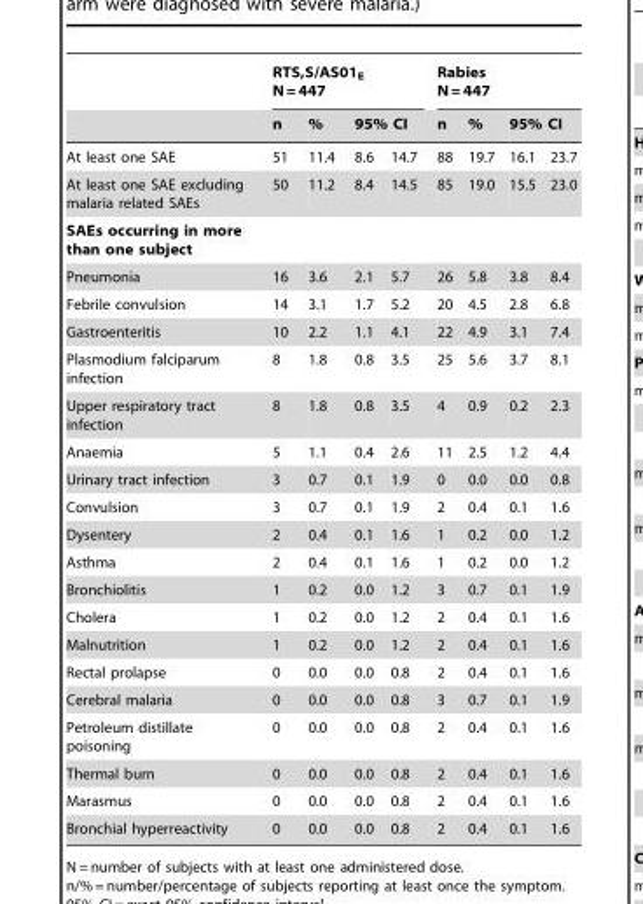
<table><thead><tr><td rowspan="3">At least one SAE</td><td colspan="4">RTS,S/AS01<sub>E</sub> N = 447</td><td colspan="4">Rabies N = 447</td></tr><tr><td rowspan="2">n 51</td><td rowspan="2">% 11.4</td><td colspan="2">95% CI</td><td rowspan="2">n 88</td><td rowspan="2">% 19.7</td><td colspan="2">95% CI</td></tr><tr><td>8.6</td><td>14.7</td><td>16.1</td><td>23.7</td></tr></thead><tbody><tr><td>At least one SAE excluding malaria related SAEs</td><td>50</td><td>11.2</td><td>8.4</td><td>14.5</td><td>85</td><td>19.0</td><td>15.5</td><td>23.0</td></tr><tr><td colspan="9">SAEs occurring in more than one subject</td></tr><tr><td>Pneumonia</td><td>16</td><td>3.6</td><td>2.1</td><td>5.7</td><td>26</td><td>5.8</td><td>3.8</td><td>8.4</td></tr><tr><td>Febrile convulsion</td><td>14</td><td>3.1</td><td>1.7</td><td>5.2</td><td>20</td><td>4.5</td><td>2.8</td><td>6.8</td></tr><tr><td>Gastroenteritis</td><td>10</td><td>2.2</td><td>1.1</td><td>4.1</td><td>22</td><td>4.9</td><td>3.1</td><td>7.4</td></tr><tr><td>Plasmodium falciparum infection</td><td>8</td><td>1.8</td><td>0.8</td><td>3.5</td><td>25</td><td>5.6</td><td>3.7</td><td>8.1</td></tr><tr><td>Upper respiratory tract infection</td><td>8</td><td>1.8</td><td>0.8</td><td>3.5</td><td>4</td><td>0.9</td><td>0.2</td><td>2.3</td></tr><tr><td>Anaemia</td><td>5</td><td>1.1</td><td>0.4</td><td>2.6</td><td>11</td><td>2.5</td><td>1.2</td><td>4.4</td></tr><tr><td>Urinary tract infection</td><td>3</td><td>0.7</td><td>0.1</td><td>1.9</td><td>0</td><td>0.0</td><td>0.0</td><td>0.8</td></tr><tr><td>Convulsion</td><td>3</td><td>0.7</td><td>0.1</td><td>1.9</td><td>2</td><td>0.4</td><td>0.1</td><td>1.6</td></tr><tr><td>Dysentery</td><td>2</td><td>0.4</td><td>0.1</td><td>1.6</td><td>1</td><td>0.2</td><td>0.0</td><td>1.2</td></tr><tr><td>Asthma</td><td>2</td><td>0.4</td><td>0.1</td><td>1.6</td><td>1</td><td>0.2</td><td>0.0</td><td>1.2</td></tr><tr><td>Bronchiolitis</td><td>1</td><td>0.2</td><td>0.0</td><td>1.2</td><td>3</td><td>0.7</td><td>0.1</td><td>1.9</td></tr><tr><td>Cholera</td><td>1</td><td>0.2</td><td>0.0</td><td>1.2</td><td>2</td><td>0.4</td><td>0.1</td><td>1.6</td></tr><tr><td>Malnutrition</td><td>1</td><td>0.2</td><td>0.0</td><td>1.2</td><td>2</td><td>0.4</td><td>0.1</td><td>1.6</td></tr><tr><td>Rectal prolapse</td><td>0</td><td>0.0</td><td>0.0</td><td>0.8</td><td>2</td><td>0.4</td><td>0.1</td><td>1.6</td></tr><tr><td>Cerebral malaria</td><td>0</td><td>0.0</td><td>0.0</td><td>0.8</td><td>3</td><td>0.7</td><td>0.1</td><td>1.9</td></tr><tr><td>Petroleum distillate poisoning</td><td>0</td><td>0.0</td><td>0.0</td><td>0.8</td><td>2</td><td>0.4</td><td>0.1</td><td>1.6</td></tr><tr><td>Thermal burn</td><td>0</td><td>0.0</td><td>0.0</td><td>0.8</td><td>2</td><td>0.4</td><td>0.1</td><td>1.6</td></tr><tr><td>Marasmus</td><td>0</td><td>0.0</td><td>0.0</td><td>0.8</td><td>2</td><td>0.4</td><td>0.1</td><td>1.6</td></tr><tr><td>Bronchial hyperreactivity</td><td>0</td><td>0.0</td><td>0.0</td><td>0.8</td><td>2</td><td>0.4</td><td>0.1</td><td>1.6</td></tr></tbody></table>